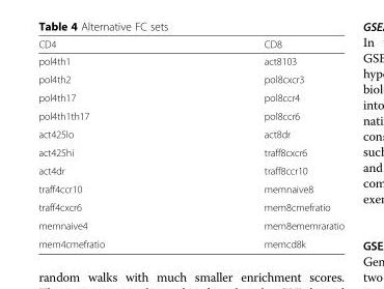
<table><thead><tr><td>CD4</td><td>CD8</td></tr></thead><tbody><tr><td>pol4th1</td><td>act8103</td></tr><tr><td>pol4th2</td><td>pol8cxcr3</td></tr><tr><td>pol4th17</td><td>pol8ccr4</td></tr><tr><td>pol4th1th17</td><td>pol8ccr6</td></tr><tr><td>act425lo</td><td>act8dr</td></tr><tr><td>act425hi</td><td>traff8cxcr6</td></tr><tr><td>act4dr</td><td>traff8ccr10</td></tr><tr><td>traff4ccr10</td><td>memnaive8</td></tr><tr><td>traff4cxcr6</td><td>mem8cmefratio</td></tr><tr><td>memnaive4</td><td>mem8ememraratio</td></tr><tr><td>mem4cmefratio</td><td>memcd8k</td></tr></tbody></table>